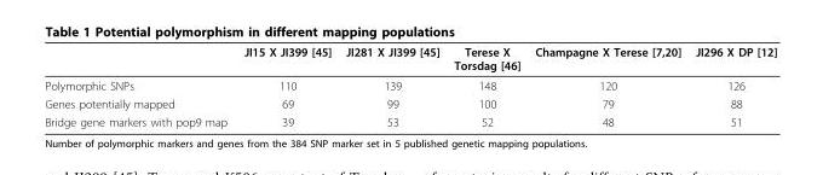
<table><thead><tr><td></td><td>JI15 X JI399 [45]</td><td>JI281 X JI399 [45]</td><td>Terese X Torsdag [46]</td><td>Champagne X Terese [7,20]</td><td>JI296 X DP [12]</td></tr></thead><tbody><tr><td>Polymorphic SNPs</td><td>110</td><td>139</td><td>148</td><td>120</td><td>126</td></tr><tr><td>Genes potentially mapped</td><td>69</td><td>99</td><td>100</td><td>79</td><td>88</td></tr><tr><td>Bridge gene markers with pop9 map</td><td>39</td><td>53</td><td>52</td><td>48</td><td>51</td></tr></tbody></table>